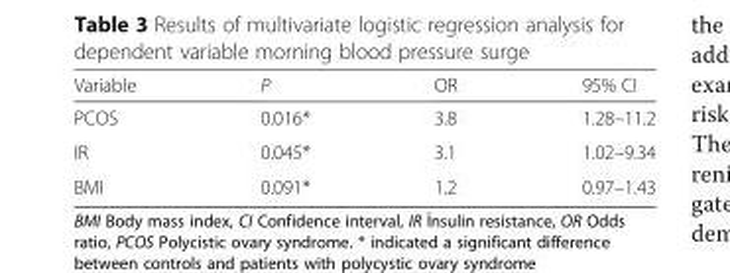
<table><thead><tr><td>Variable</td><td>P</td><td>OR</td><td>95% CI</td></tr></thead><tbody><tr><td>PCOS</td><td>0.016*</td><td>3.8</td><td>1.28–11.2</td></tr><tr><td>IR</td><td>0.045*</td><td>3.1</td><td>1.02–9.34</td></tr><tr><td>BMI</td><td>0.091*</td><td>1.2</td><td>0.97–1.43</td></tr></tbody></table>